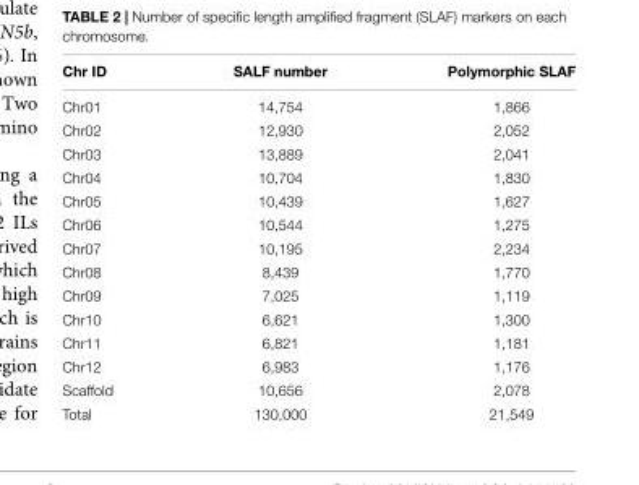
<table><thead><tr><td>Chr ID</td><td>SALF number</td><td>Polymorphic SLAF</td></tr></thead><tbody><tr><td>Chr01</td><td>14,754</td><td>1,866</td></tr><tr><td>Chr02</td><td>12,930</td><td>2,052</td></tr><tr><td>Chr03</td><td>13,889</td><td>2,041</td></tr><tr><td>Chr04</td><td>10,704</td><td>1,830</td></tr><tr><td>Chr05</td><td>10,439</td><td>1,627</td></tr><tr><td>Chr06</td><td>10,544</td><td>1,275</td></tr><tr><td>Chr07</td><td>10,195</td><td>2,234</td></tr><tr><td>Chr08</td><td>8,439</td><td>1,770</td></tr><tr><td>Chr09</td><td>7,025</td><td>1,119</td></tr><tr><td>Chr10</td><td>6,621</td><td>1,300</td></tr><tr><td>Chr11</td><td>6,821</td><td>1,181</td></tr><tr><td>Chr12</td><td>6,983</td><td>1,176</td></tr><tr><td>Scaffold</td><td>10,656</td><td>2,078</td></tr><tr><td>Total</td><td>130,000</td><td>21,549</td></tr></tbody></table>